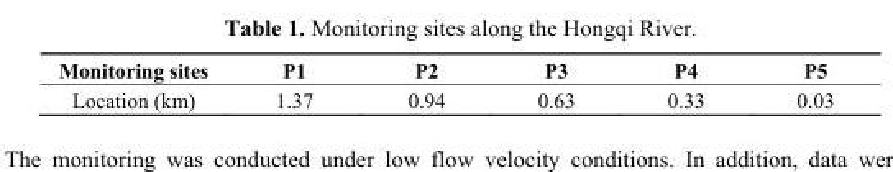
<table><thead><tr><td>Monitoring sites</td><td>P1</td><td>P2</td><td>P3</td><td>P4</td><td>P5</td></tr></thead><tbody><tr><td>Location (km)</td><td>1.37</td><td>0.94</td><td>0.63</td><td>0.33</td><td>0.03</td></tr></tbody></table>